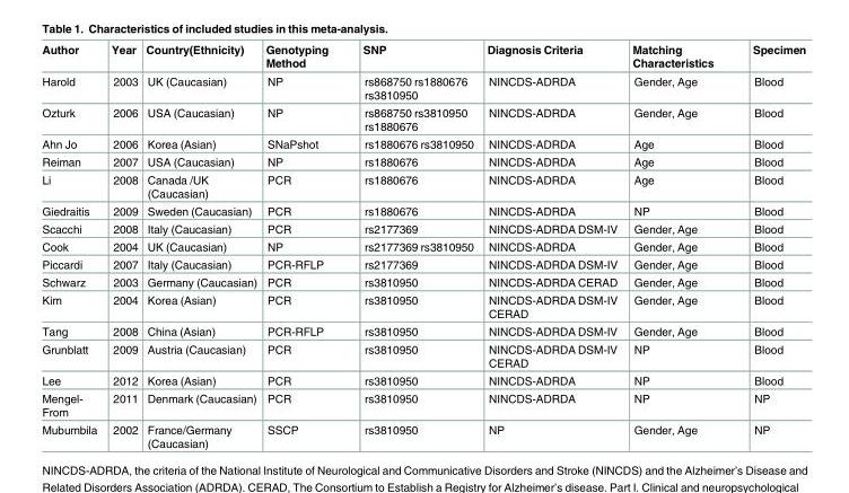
<table><thead><tr><td>Author</td><td>Year</td><td>Country(Ethnicity)</td><td>Genotyping Method</td><td>SNP</td><td>Diagnosis Criteria</td><td>Matching Characteristics</td><td>Specimen</td></tr></thead><tbody><tr><td>Harold</td><td>2003</td><td>UK (Caucasian)</td><td>NP</td><td>rs868750 rs1880676 rs3810950</td><td>NINCDS-ADRDA</td><td>Gender, Age</td><td>Blood</td></tr><tr><td>Ozturk</td><td>2006</td><td>USA (Caucasian)</td><td>NP</td><td>rs868750 rs3810950 rs1880676</td><td>NINCDS-ADRDA</td><td>Gender, Age</td><td>Blood</td></tr><tr><td>Ahn Jo</td><td>2006</td><td>Korea (Asian)</td><td>SNaPshot</td><td>rs1880676 rs3810950</td><td>NINCDS-ADRDA</td><td>Age</td><td>Blood</td></tr><tr><td>Reiman</td><td>2007</td><td>USA (Caucasian)</td><td>NP</td><td>rs1880676</td><td>NINCDS-ADRDA</td><td>Age</td><td>Blood</td></tr><tr><td>Li</td><td>2008</td><td>Canada /UK (Caucasian)</td><td>PCR</td><td>rs1880676</td><td>NINCDS-ADRDA</td><td>Age</td><td>Blood</td></tr><tr><td>Giedraitis</td><td>2009</td><td>Sweden (Caucasian)</td><td>PCR</td><td>rs1880676</td><td>NINCDS-ADRDA</td><td>NP</td><td>Blood</td></tr><tr><td>Scacchi</td><td>2008</td><td>Italy (Caucasian)</td><td>PCR</td><td>rs2177369</td><td>NINCDS-ADRDA DSM-IV</td><td>Gender, Age</td><td>Blood</td></tr><tr><td>Cook</td><td>2004</td><td>UK (Caucasian)</td><td>NP</td><td>rs2177369 rs3810950</td><td>NINCDS-ADRDA</td><td>Gender, Age</td><td>Blood</td></tr><tr><td>Piccardi</td><td>2007</td><td>Italy (Caucasian)</td><td>PCR-RFLP</td><td>rs2177369</td><td>NINCDS-ADRDA DSM-IV</td><td>Gender, Age</td><td>Blood</td></tr><tr><td>Schwarz</td><td>2003</td><td>Germany (Caucasian)</td><td>PCR</td><td>rs3810950</td><td>NINCDS-ADRDA CERAD</td><td>Gender, Age</td><td>Blood</td></tr><tr><td>Kim</td><td>2004</td><td>Korea (Asian)</td><td>PCR</td><td>rs3810950</td><td>NINCDS-ADRDA DSM-IV CERAD</td><td>Gender, Age</td><td>Blood</td></tr><tr><td>Tang</td><td>2008</td><td>China (Asian)</td><td>PCR-RFLP</td><td>rs3810950</td><td>NINCDS-ADRDA DSM-IV</td><td>Gender, Age</td><td>Blood</td></tr><tr><td>Grunblatt</td><td>2009</td><td>Austria (Caucasian)</td><td>PCR</td><td>rs3810950</td><td>NINCDS-ADRDA DSM-IV CERAD</td><td>NP</td><td>Blood</td></tr><tr><td>Lee</td><td>2012</td><td>Korea (Asian)</td><td>PCR</td><td>rs3810950</td><td>NINCDS-ADRDA</td><td>NP</td><td>Blood</td></tr><tr><td>Mengel- From</td><td>2011</td><td>Denmark (Caucasian)</td><td>PCR</td><td>rs3810950</td><td>NINCDS-ADRDA</td><td>NP</td><td>NP</td></tr><tr><td>Mubumbila</td><td>2002</td><td>France/Germany (Caucasian)</td><td>SSCP</td><td>rs3810950</td><td>NP</td><td>Gender, Age</td><td>NP</td></tr></tbody></table>